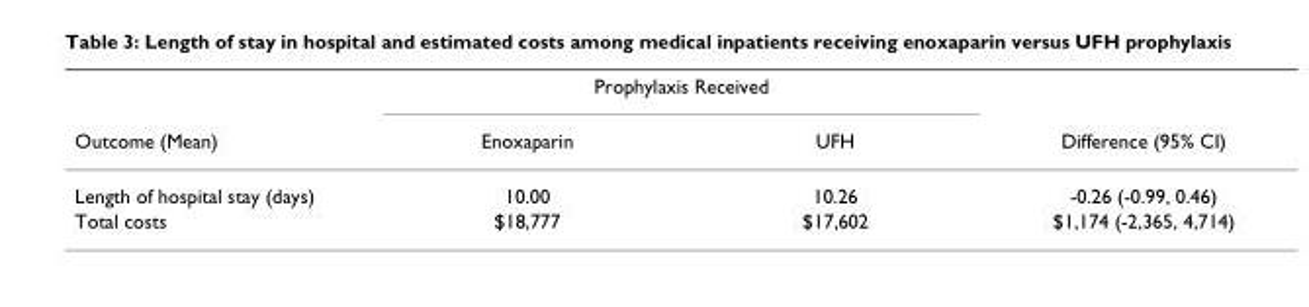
<table><thead><tr><td rowspan="2">Outcome (Mean)</td><td colspan="2">Prophylaxis Received</td><td rowspan="2">Difference (95% CI)</td></tr><tr><td>Enoxaparin</td><td>UFH</td></tr></thead><tbody><tr><td>Length of hospital stay (days)</td><td>10.00</td><td>10.26</td><td>-0.26 (-0.99, 0.46)</td></tr><tr><td>Total costs</td><td>$18,777</td><td>$17,602</td><td>$1,174 (-2,365, 4,714)</td></tr></tbody></table>